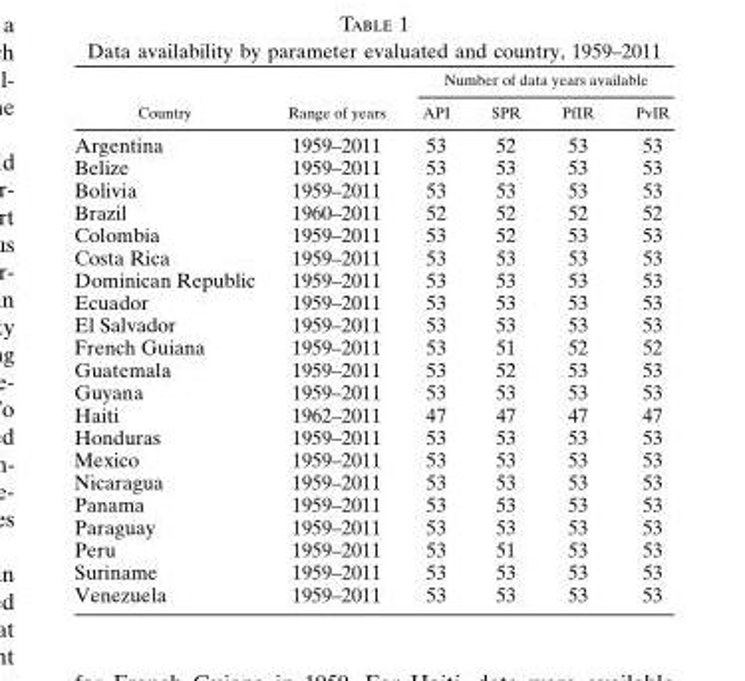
<table><thead><tr><td rowspan="2">Country</td><td rowspan="2">Range of years</td><td colspan="4">Number of data years available</td></tr><tr><td>API</td><td>SPR</td><td>PfIR</td><td>PvIR</td></tr></thead><tbody><tr><td>Argentina</td><td>1959–2011</td><td>53</td><td>52</td><td>53</td><td>53</td></tr><tr><td>Belize</td><td>1959–2011</td><td>53</td><td>53</td><td>53</td><td>53</td></tr><tr><td>Bolivia</td><td>1959–2011</td><td>53</td><td>53</td><td>53</td><td>53</td></tr><tr><td>Brazil</td><td>1960–2011</td><td>52</td><td>52</td><td>52</td><td>52</td></tr><tr><td>Colombia</td><td>1959–2011</td><td>53</td><td>52</td><td>53</td><td>53</td></tr><tr><td>Costa Rica</td><td>1959–2011</td><td>53</td><td>53</td><td>53</td><td>53</td></tr><tr><td>Dominican Republic</td><td>1959–2011</td><td>53</td><td>53</td><td>53</td><td>53</td></tr><tr><td>Ecuador</td><td>1959–2011</td><td>53</td><td>53</td><td>53</td><td>53</td></tr><tr><td>El Salvador</td><td>1959–2011</td><td>53</td><td>53</td><td>53</td><td>53</td></tr><tr><td>French Guiana</td><td>1959–2011</td><td>53</td><td>51</td><td>52</td><td>52</td></tr><tr><td>Guatemala</td><td>1959–2011</td><td>53</td><td>52</td><td>53</td><td>53</td></tr><tr><td>Guyana</td><td>1959–2011</td><td>53</td><td>53</td><td>53</td><td>53</td></tr><tr><td>Haiti</td><td>1962–2011</td><td>47</td><td>47</td><td>47</td><td>47</td></tr><tr><td>Honduras</td><td>1959–2011</td><td>53</td><td>53</td><td>53</td><td>53</td></tr><tr><td>Mexico</td><td>1959–2011</td><td>53</td><td>53</td><td>53</td><td>53</td></tr><tr><td>Nicaragua</td><td>1959–2011</td><td>53</td><td>53</td><td>53</td><td>53</td></tr><tr><td>Panama</td><td>1959–2011</td><td>53</td><td>53</td><td>53</td><td>53</td></tr><tr><td>Paraguay</td><td>1959–2011</td><td>53</td><td>53</td><td>53</td><td>53</td></tr><tr><td>Peru</td><td>1959–2011</td><td>53</td><td>51</td><td>53</td><td>53</td></tr><tr><td>Suriname</td><td>1959–2011</td><td>53</td><td>53</td><td>53</td><td>53</td></tr><tr><td>Venezuela</td><td>1959–2011</td><td>53</td><td>53</td><td>53</td><td>53</td></tr></tbody></table>